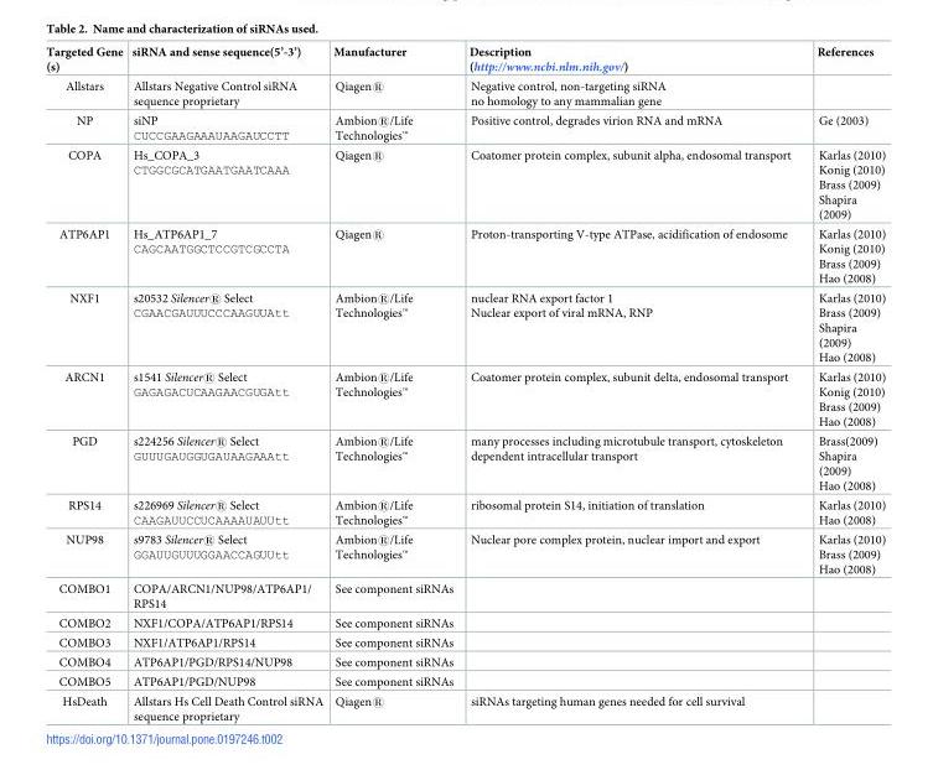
<table><thead><tr><td>Targeted Gene (s)</td><td>siRNA and sense sequence(5’-3’)</td><td>Manufacturer</td><td>Description (http://www.ncbi.nlm.nih.gov/)</td><td>References</td></tr></thead><tbody><tr><td>Allstars</td><td>Allstars Negative Control siRNA sequence proprietary</td><td>Qiagen®</td><td>Negative control, non-targeting siRNA no homology to any mammalian gene</td><td></td></tr><tr><td>NP</td><td>siNP CUCCGAAGAAAUAAGAUCCTT</td><td>Ambion®/Life Technologies™</td><td>Positive control, degrades virion RNA and mRNA</td><td>Ge (2003)</td></tr><tr><td>COPA</td><td>Hs_COPA_3 CTGGCGCATGAATGAATCAAA</td><td>Qiagen®</td><td>Coatomer protein complex, subunit alpha, endosomal transport</td><td>Karlas (2010) Konig (2010) Brass (2009) Shapira (2009)</td></tr><tr><td>ATP6AP1</td><td>Hs_ATP6AP1_7 CAGCAATGGCTCCGTCGCCTA</td><td>Qiagen®</td><td>Proton-transporting V-type ATPase, acidification of endosome</td><td>Karlas (2010) Konig (2010) Brass (2009) Hao (2008)</td></tr><tr><td>NXF1</td><td>s20532 Silencer® Select CGAACGAUUUCCCAAGUUAtt</td><td>Ambion®/Life Technologies™</td><td>nuclear RNA export factor 1 Nuclear export of viral mRNA, RNP</td><td>Karlas (2010) Brass (2009) Shapira (2009) Hao (2008)</td></tr><tr><td>ARCN1</td><td>s1541 Silencer® Select GAGAGACUCAAGAACGUGAtt</td><td>Ambion®/Life Technologies™</td><td>Coatomer protein complex, subunit delta, endosomal transport</td><td>Karlas (2010) Konig (2010) Brass (2009) Hao (2008)</td></tr><tr><td>PGD</td><td>s224256 Silencer® Select GUUUGAUGGUGAUAAGAAAtt</td><td>Ambion®/Life Technologies™</td><td>many processes including microtubule transport, cytoskeleton dependent intracellular transport</td><td>Brass(2009) Shapira (2009) Hao (2008)</td></tr><tr><td>RPS14</td><td>s226969 Silencer® Select CAAGAUUCCUCAAAAUAUUtt</td><td>Ambion®/Life Technologies™</td><td>ribosomal protein S14, initiation of translation</td><td>Karlas (2010) Hao (2008)</td></tr><tr><td>NUP98</td><td>s9783 Silencer® Select GGAUUGUUUGGAACCAGUUtt</td><td>Ambion®/Life Technologies™</td><td>Nuclear pore complex protein, nuclear import and export</td><td>Karlas (2010) Brass (2009) Hao (2008)</td></tr><tr><td>COMBO1</td><td>COPA/ARCN1/NUP98/ATP6AP1/ RPS14</td><td>See component siRNAs</td><td></td><td></td></tr><tr><td>COMBO2</td><td>NXF1/COPA/ATP6AP1/RPS14</td><td>See component siRNAs</td><td></td><td></td></tr><tr><td>COMBO3</td><td>NXF1/ATP6AP1/RPS14</td><td>See component siRNAs</td><td></td><td></td></tr><tr><td>COMBO4</td><td>ATP6AP1/PGD/RPS14/NUP98</td><td>See component siRNAs</td><td></td><td></td></tr><tr><td>COMBO5</td><td>ATP6AP1/PGD/NUP98</td><td>See component siRNAs</td><td></td><td></td></tr><tr><td>HsDeath</td><td>Allstars Hs Cell Death Control siRNA sequence proprietary</td><td>Qiagen®</td><td>siRNAs targeting human genes needed for cell survival</td><td></td></tr></tbody></table>